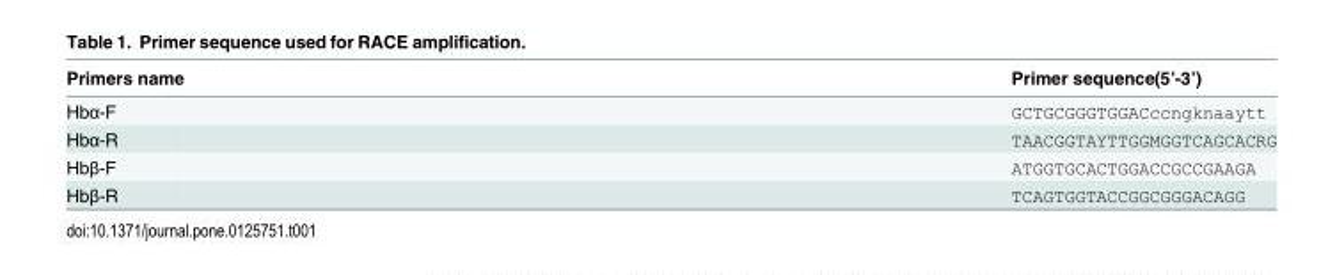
<table><thead><tr><td>Primers name</td><td>Primer sequence(5’-3’)</td></tr></thead><tbody><tr><td>Hbα-F</td><td>GCTGCGGGTGGACccngknaaytt</td></tr><tr><td>Hbα-R</td><td>TAACGGTAYTTGGMGGTCAGCACRG</td></tr><tr><td>Hbβ-F</td><td>ATGGTGCACTGGACCGCCGAAGA</td></tr><tr><td>Hbβ-R</td><td>TCAGTGGTACCGGCGGGACAGG</td></tr></tbody></table>